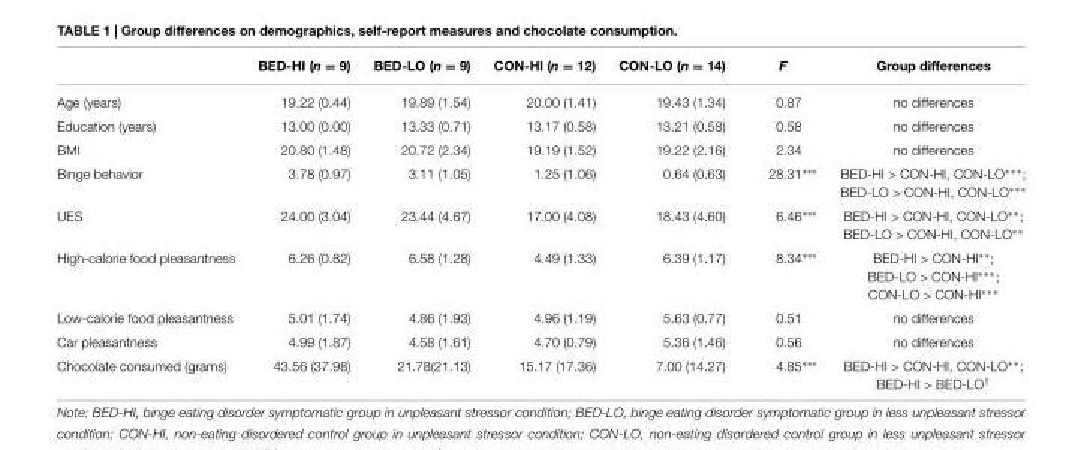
<table><thead><tr><td></td><td>BED-HI (n = 9)</td><td>BED-LO (n = 9)</td><td>CON-HI (n = 12)</td><td>CON-LO (n = 14)</td><td>F</td><td>Group differences</td></tr></thead><tbody><tr><td>Age (years)</td><td>19.22 (0.44)</td><td>19.89 (1.54)</td><td>20.00 (1.41)</td><td>19.43 (1.34)</td><td>0.87</td><td>no differences</td></tr><tr><td>Education (years)</td><td>13.00 (0.00)</td><td>13.33 (0.71)</td><td>13.17 (0.58)</td><td>13.21 (0.58)</td><td>0.58</td><td>no differences</td></tr><tr><td>BMI</td><td>20.80 (1.48)</td><td>20.72 (2.34)</td><td>19.19 (1.52)</td><td>19.22 (2.16)</td><td>2.34</td><td>no differences</td></tr><tr><td>Binge behavior</td><td>3.78 (0.97)</td><td>3.11 (1.05)</td><td>1.25 (1.06)</td><td>0.64 (0.63)</td><td>28.31∗∗∗</td><td>BED-HI &gt; CON-HI, CON-LO∗∗∗; BED-LO &gt; CON-HI, CON-LO∗∗∗</td></tr><tr><td>UES</td><td>24.00 (3.04)</td><td>23.44 (4.67)</td><td>17.00 (4.08)</td><td>18.43 (4.60)</td><td>6.46∗∗∗</td><td>BED-HI &gt; CON-HI, CON-LO∗∗; BED-LO &gt; CON-HI, CON-LO∗∗</td></tr><tr><td>High-calorie food pleasantness</td><td>6.26 (0.82)</td><td>6.58 (1.28)</td><td>4.49 (1.33)</td><td>6.39 (1.17)</td><td>8.34∗∗∗</td><td>BED-HI &gt; CON-HI∗∗; BED-LO &gt; CON-HI∗∗∗; CON-LO &gt; CON-HI∗∗∗</td></tr><tr><td>Low-calorie food pleasantness</td><td>5.01 (1.74)</td><td>4.86 (1.93)</td><td>4.96 (1.19)</td><td>5.63 (0.77)</td><td>0.51</td><td>no differences</td></tr><tr><td>Car pleasantness</td><td>4.99 (1.87)</td><td>4.58 (1.61)</td><td>4.70 (0.79)</td><td>5.36 (1.46)</td><td>0.56</td><td>no differences</td></tr><tr><td>Chocolate consumed (grams)</td><td>43.56 (37.98)</td><td>21.78(21.13)</td><td>15.17 (17.36)</td><td>7.00 (14.27)</td><td>4.85∗∗∗</td><td>BED-HI &gt; CON-HI, CON-LO∗∗; BED-HI &gt; BED-LO†</td></tr></tbody></table>